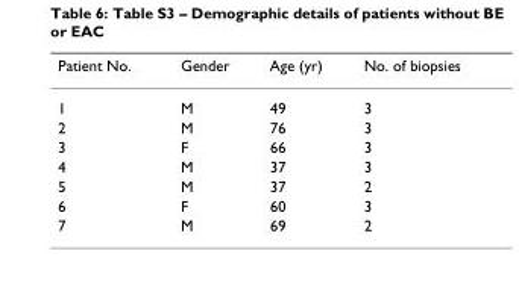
<table><thead><tr><td>Patient No.</td><td>Gender</td><td>Age (yr)</td><td>No. of biopsies</td></tr></thead><tbody><tr><td>1</td><td>M</td><td>49</td><td>3</td></tr><tr><td>2</td><td>M</td><td>76</td><td>3</td></tr><tr><td>3</td><td>F</td><td>66</td><td>3</td></tr><tr><td>4</td><td>M</td><td>37</td><td>3</td></tr><tr><td>5</td><td>M</td><td>37</td><td>2</td></tr><tr><td>6</td><td>F</td><td>60</td><td>3</td></tr><tr><td>7</td><td>M</td><td>69</td><td>2</td></tr></tbody></table>